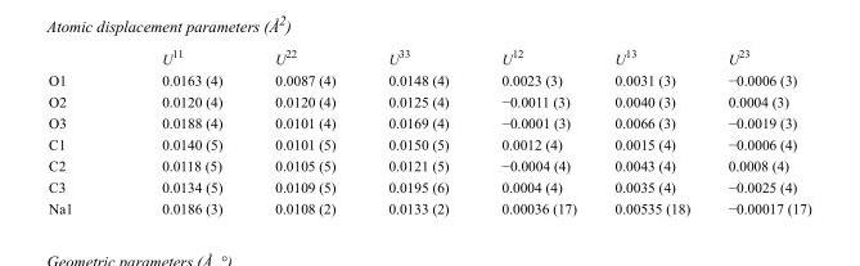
<table><thead><tr><td></td><td>U<sup>11</sup></td><td>U<sup>22</sup></td><td>U<sup>33</sup></td><td>U<sup>12</sup></td><td>U<sup>13</sup></td><td>U<sup>23</sup></td></tr></thead><tbody><tr><td>O1</td><td>0.0163 (4)</td><td>0.0087 (4)</td><td>0.0148 (4)</td><td>0.0023 (3)</td><td>0.0031 (3)</td><td>−0.0006 (3)</td></tr><tr><td>O2</td><td>0.0120 (4)</td><td>0.0120 (4)</td><td>0.0125 (4)</td><td>−0.0011 (3)</td><td>0.0040 (3)</td><td>0.0004 (3)</td></tr><tr><td>O3</td><td>0.0188 (4)</td><td>0.0101 (4)</td><td>0.0169 (4)</td><td>−0.0001 (3)</td><td>0.0066 (3)</td><td>−0.0019 (3)</td></tr><tr><td>C1</td><td>0.0140 (5)</td><td>0.0101 (5)</td><td>0.0150 (5)</td><td>0.0012 (4)</td><td>0.0015 (4)</td><td>−0.0006 (4)</td></tr><tr><td>C2</td><td>0.0118 (5)</td><td>0.0105 (5)</td><td>0.0121 (5)</td><td>−0.0004 (4)</td><td>0.0043 (4)</td><td>0.0008 (4)</td></tr><tr><td>C3</td><td>0.0134 (5)</td><td>0.0109 (5)</td><td>0.0195 (6)</td><td>0.0004 (4)</td><td>0.0035 (4)</td><td>−0.0025 (4)</td></tr><tr><td>Na1</td><td>0.0186 (3)</td><td>0.0108 (2)</td><td>0.0133 (2)</td><td>0.00036 (17)</td><td>0.00535 (18)</td><td>−0.00017 (17)</td></tr></tbody></table>